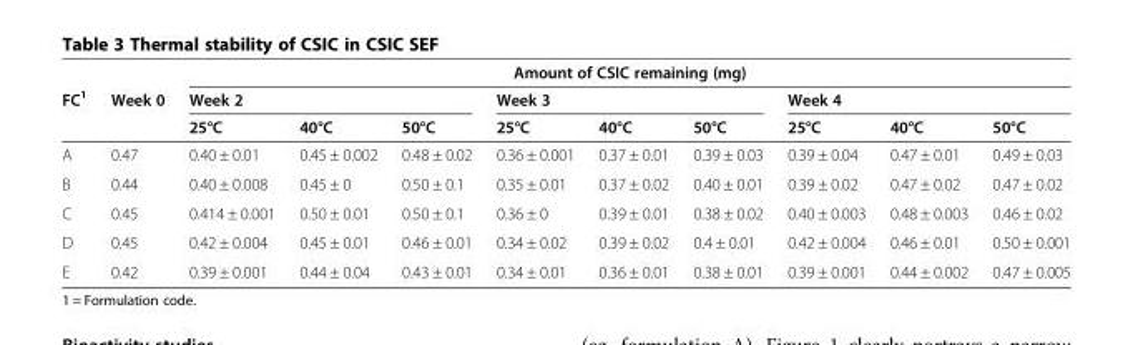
<table><thead><tr><td rowspan="3">FC<sup>1</sup></td><td rowspan="3">Week 0</td><td colspan="9">Amount of CSIC remaining (mg)</td></tr><tr><td colspan="3">Week 2</td><td colspan="3">Week 3</td><td colspan="3">Week 4</td></tr><tr><td>25°C</td><td>40°C</td><td>50°C</td><td>25°C</td><td>40°C</td><td>50°C</td><td>25°C</td><td>40°C</td><td>50°C</td></tr></thead><tbody><tr><td>A</td><td>0.47</td><td>0.40 ± 0.01</td><td>0.45 ± 0.002</td><td>0.48 ± 0.02</td><td>0.36 ± 0.001</td><td>0.37 ± 0.01</td><td>0.39 ± 0.03</td><td>0.39 ± 0.04</td><td>0.47 ± 0.01</td><td>0.49 ± 0.03</td></tr><tr><td>B</td><td>0.44</td><td>0.40 ± 0.008</td><td>0.45 ± 0</td><td>0.50 ± 0.1</td><td>0.35 ± 0.01</td><td>0.37 ± 0.02</td><td>0.40 ± 0.01</td><td>0.39 ± 0.02</td><td>0.47 ± 0.02</td><td>0.47 ± 0.02</td></tr><tr><td>C</td><td>0.45</td><td>0.414 ± 0.001</td><td>0.50 ± 0.01</td><td>0.50 ± 0.1</td><td>0.36 ± 0</td><td>0.39 ± 0.01</td><td>0.38 ± 0.02</td><td>0.40 ± 0.003</td><td>0.48 ± 0.003</td><td>0.46 ± 0.02</td></tr><tr><td>D</td><td>0.45</td><td>0.42 ± 0.004</td><td>0.45 ± 0.01</td><td>0.46 ± 0.01</td><td>0.34 ± 0.02</td><td>0.39 ± 0.02</td><td>0.4 ± 0.01</td><td>0.42 ± 0.004</td><td>0.46 ± 0.01</td><td>0.50 ± 0.001</td></tr><tr><td>E</td><td>0.42</td><td>0.39 ± 0.001</td><td>0.44 ± 0.04</td><td>0.43 ± 0.01</td><td>0.34 ± 0.01</td><td>0.36 ± 0.01</td><td>0.38 ± 0.01</td><td>0.39 ± 0.001</td><td>0.44 ± 0.002</td><td>0.47 ± 0.005</td></tr></tbody></table>